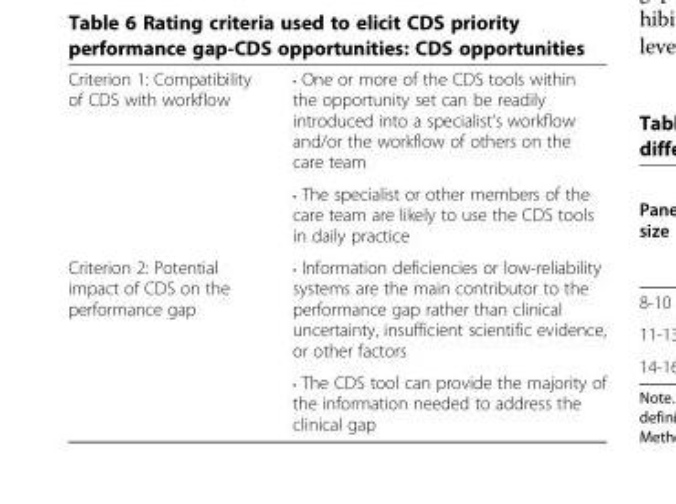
<table><tbody><tr><td rowspan="2">Criterion 1: Compatibility of CDS with workflow</td><td>• One or more of the CDS tools within the opportunity set can be readily introduced into a specialist’s workflow and/or the workflow of others on the care team</td></tr><tr><td>• The specialist or other members of the care team are likely to use the CDS tools in daily practice</td></tr><tr><td rowspan="2">Criterion 2: Potential impact of CDS on the performance gap</td><td>• Information deficiencies or low-reliability systems are the main contributor to the performance gap rather than clinical uncertainty, insufficient scientific evidence, or other factors</td></tr><tr><td>• The CDS tool can provide the majority of the information needed to address the clinical gap</td></tr></tbody></table>